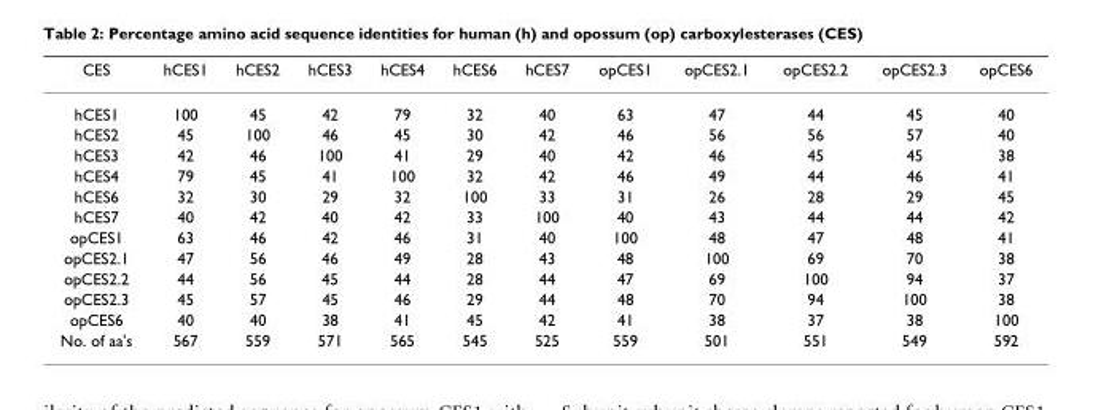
<table><thead><tr><td>CES</td><td>hCES1</td><td>hCES2</td><td>hCES3</td><td>hCES4</td><td>hCES6</td><td>hCES7</td><td>opCES1</td><td>opCES2.1</td><td>opCES2.2</td><td>opCES2.3</td><td>opCES6</td></tr></thead><tbody><tr><td>hCES1</td><td>100</td><td>45</td><td>42</td><td>79</td><td>32</td><td>40</td><td>63</td><td>47</td><td>44</td><td>45</td><td>40</td></tr><tr><td>hCES2</td><td>45</td><td>100</td><td>46</td><td>45</td><td>30</td><td>42</td><td>46</td><td>56</td><td>56</td><td>57</td><td>40</td></tr><tr><td>hCES3</td><td>42</td><td>46</td><td>100</td><td>41</td><td>29</td><td>40</td><td>42</td><td>46</td><td>45</td><td>45</td><td>38</td></tr><tr><td>hCES4</td><td>79</td><td>45</td><td>41</td><td>100</td><td>32</td><td>42</td><td>46</td><td>49</td><td>44</td><td>46</td><td>41</td></tr><tr><td>hCES6</td><td>32</td><td>30</td><td>29</td><td>32</td><td>100</td><td>33</td><td>31</td><td>26</td><td>28</td><td>29</td><td>45</td></tr><tr><td>hCES7</td><td>40</td><td>42</td><td>40</td><td>42</td><td>33</td><td>100</td><td>40</td><td>43</td><td>44</td><td>44</td><td>42</td></tr><tr><td>opCES1</td><td>63</td><td>46</td><td>42</td><td>46</td><td>31</td><td>40</td><td>100</td><td>48</td><td>47</td><td>48</td><td>41</td></tr><tr><td>opCES2.1</td><td>47</td><td>56</td><td>46</td><td>49</td><td>28</td><td>43</td><td>48</td><td>100</td><td>69</td><td>70</td><td>38</td></tr><tr><td>opCES2.2</td><td>44</td><td>56</td><td>45</td><td>44</td><td>28</td><td>44</td><td>47</td><td>69</td><td>100</td><td>94</td><td>37</td></tr><tr><td>opCES2.3</td><td>45</td><td>57</td><td>45</td><td>46</td><td>29</td><td>44</td><td>48</td><td>70</td><td>94</td><td>100</td><td>38</td></tr><tr><td>opCES6</td><td>40</td><td>40</td><td>38</td><td>41</td><td>45</td><td>42</td><td>41</td><td>38</td><td>37</td><td>38</td><td>100</td></tr><tr><td>No. of aa&#x27;s</td><td>567</td><td>559</td><td>571</td><td>565</td><td>545</td><td>525</td><td>559</td><td>501</td><td>551</td><td>549</td><td>592</td></tr></tbody></table>